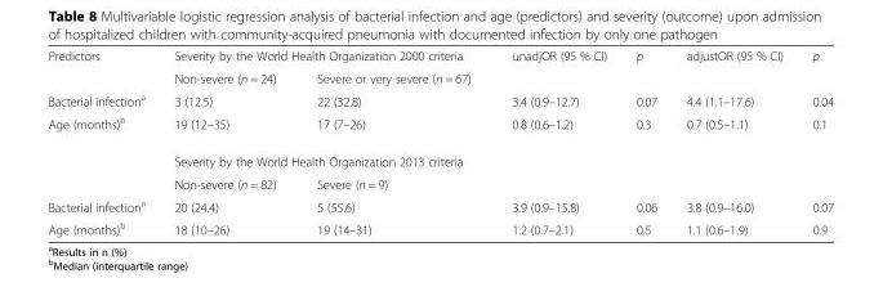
<table><tbody><tr><td rowspan="2">Predictors</td><td colspan="2">Severity by the World Health Organization 2000 criteria</td><td>unadjOR (95 % CI)</td><td>p</td><td>adjustOR (95 % CI)</td><td>p</td></tr><tr><td>Non-severe (n = 24)</td><td>Severe or very severe (n = 67)</td><td></td><td></td><td></td><td></td></tr><tr><td>Bacterial infection<sup>a</sup></td><td>3 (12.5)</td><td>22 (32.8)</td><td>3.4 (0.9–12.7)</td><td>0.07</td><td>4.4 (1.1–17.6)</td><td>0.04</td></tr><tr><td rowspan="3">Age (months)<sup>b</sup></td><td>19 (12–35)</td><td>17 (7–26)</td><td>0.8 (0.6–1.2)</td><td>0.3</td><td>0.7 (0.5–1.1)</td><td>0.1</td></tr><tr><td colspan="2">Severity by the World Health Organization 2013 criteria</td><td></td><td></td><td></td><td></td></tr><tr><td>Non-severe (n = 82)</td><td>Severe (n = 9)</td><td></td><td></td><td></td><td></td></tr><tr><td>Bacterial infection<sup>a</sup></td><td>20 (24.4)</td><td>5 (55.6)</td><td>3.9 (0.9–15.8)</td><td>0.06</td><td>3.8 (0.9–16.0)</td><td>0.07</td></tr><tr><td>Age (months)<sup>b</sup></td><td>18 (10–26)</td><td>19 (14–31)</td><td>1.2 (0.7–2.1)</td><td>0.5</td><td>1.1 (0.6–1.9)</td><td>0.9</td></tr></tbody></table>